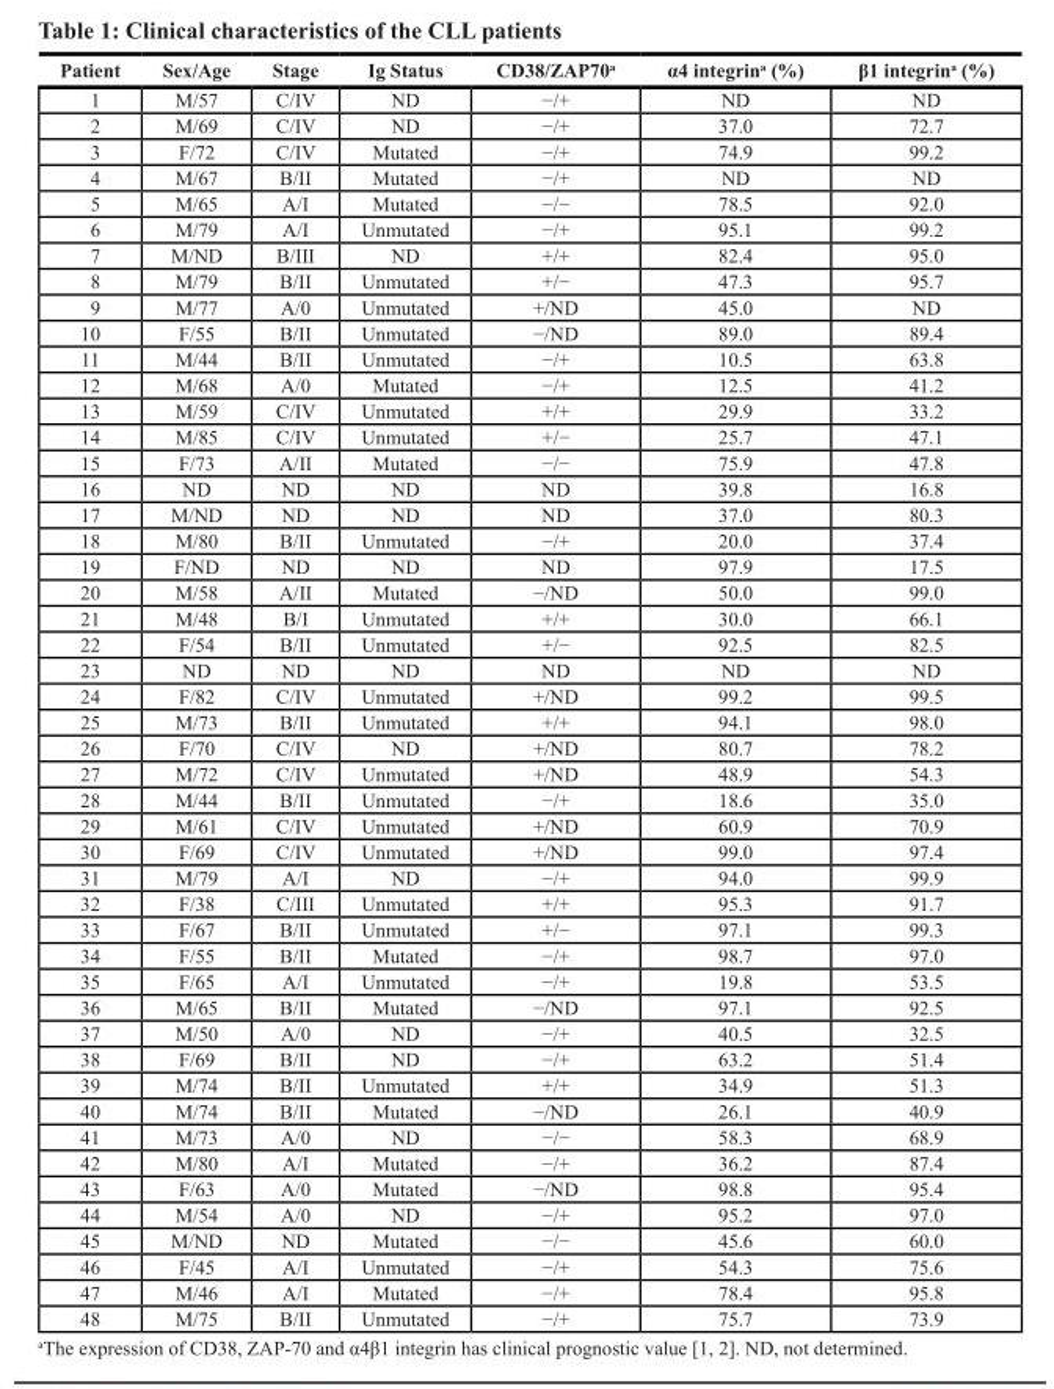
<table><thead><tr><td>Patient</td><td>Sex/Age</td><td>Stage</td><td>Ig Status</td><td>CD38/ZAP70<sup>a</sup></td><td>α4 integrin<sup>a</sup> (%)</td><td>β1 integrin<sup>a</sup> (%)</td></tr></thead><tbody><tr><td>1</td><td>M/57</td><td>C/IV</td><td>ND</td><td>−/+</td><td>ND</td><td>ND</td></tr><tr><td>2</td><td>M/69</td><td>C/IV</td><td>ND</td><td>−/+</td><td>37.0</td><td>72.7</td></tr><tr><td>3</td><td>F/72</td><td>C/IV</td><td>Mutated</td><td>−/+</td><td>74.9</td><td>99.2</td></tr><tr><td>4</td><td>M/67</td><td>B/II</td><td>Mutated</td><td>−/+</td><td>ND</td><td>ND</td></tr><tr><td>5</td><td>M/65</td><td>A/I</td><td>Mutated</td><td>−/−</td><td>78.5</td><td>92.0</td></tr><tr><td>6</td><td>M/79</td><td>A/I</td><td>Unmutated</td><td>−/+</td><td>95.1</td><td>99.2</td></tr><tr><td>7</td><td>M/ND</td><td>B/III</td><td>ND</td><td>+/+</td><td>82.4</td><td>95.0</td></tr><tr><td>8</td><td>M/79</td><td>B/II</td><td>Unmutated</td><td>+/−</td><td>47.3</td><td>95.7</td></tr><tr><td>9</td><td>M/77</td><td>A/0</td><td>Unmutated</td><td>+/ND</td><td>45.0</td><td>ND</td></tr><tr><td>10</td><td>F/55</td><td>B/II</td><td>Unmutated</td><td>−/ND</td><td>89.0</td><td>89.4</td></tr><tr><td>11</td><td>M/44</td><td>B/II</td><td>Unmutated</td><td>−/+</td><td>10.5</td><td>63.8</td></tr><tr><td>12</td><td>M/68</td><td>A/0</td><td>Mutated</td><td>−/+</td><td>12.5</td><td>41.2</td></tr><tr><td>13</td><td>M/59</td><td>C/IV</td><td>Unmutated</td><td>+/+</td><td>29.9</td><td>33.2</td></tr><tr><td>14</td><td>M/85</td><td>C/IV</td><td>Unmutated</td><td>+/−</td><td>25.7</td><td>47.1</td></tr><tr><td>15</td><td>F/73</td><td>A/II</td><td>Mutated</td><td>−/−</td><td>75.9</td><td>47.8</td></tr><tr><td>16</td><td>ND</td><td>ND</td><td>ND</td><td>ND</td><td>39.8</td><td>16.8</td></tr><tr><td>17</td><td>M/ND</td><td>ND</td><td>ND</td><td>ND</td><td>37.0</td><td>80.3</td></tr><tr><td>18</td><td>M/80</td><td>B/II</td><td>Unmutated</td><td>−/+</td><td>20.0</td><td>37.4</td></tr><tr><td>19</td><td>F/ND</td><td>ND</td><td>ND</td><td>ND</td><td>97.9</td><td>17.5</td></tr><tr><td>20</td><td>M/58</td><td>A/II</td><td>Mutated</td><td>−/ND</td><td>50.0</td><td>99.0</td></tr><tr><td>21</td><td>M/48</td><td>B/I</td><td>Unmutated</td><td>+/+</td><td>30.0</td><td>66.1</td></tr><tr><td>22</td><td>F/54</td><td>B/II</td><td>Unmutated</td><td>+/−</td><td>92.5</td><td>82.5</td></tr><tr><td>23</td><td>ND</td><td>ND</td><td>ND</td><td>ND</td><td>ND</td><td>ND</td></tr><tr><td>24</td><td>F/82</td><td>C/IV</td><td>Unmutated</td><td>+/ND</td><td>99.2</td><td>99.5</td></tr><tr><td>25</td><td>M/73</td><td>B/II</td><td>Unmutated</td><td>+/+</td><td>94.1</td><td>98.0</td></tr><tr><td>26</td><td>F/70</td><td>C/IV</td><td>ND</td><td>+/ND</td><td>80.7</td><td>78.2</td></tr><tr><td>27</td><td>M/72</td><td>C/IV</td><td>Unmutated</td><td>+/ND</td><td>48.9</td><td>54.3</td></tr><tr><td>28</td><td>M/44</td><td>B/II</td><td>Unmutated</td><td>−/+</td><td>18.6</td><td>35.0</td></tr><tr><td>29</td><td>M/61</td><td>C/IV</td><td>Unmutated</td><td>+/ND</td><td>60.9</td><td>70.9</td></tr><tr><td>30</td><td>F/69</td><td>C/IV</td><td>Unmutated</td><td>+/ND</td><td>99.0</td><td>97.4</td></tr><tr><td>31</td><td>M/79</td><td>A/I</td><td>ND</td><td>−/+</td><td>94.0</td><td>99.9</td></tr><tr><td>32</td><td>F/38</td><td>C/III</td><td>Unmutated</td><td>+/+</td><td>95.3</td><td>91.7</td></tr><tr><td>33</td><td>F/67</td><td>B/II</td><td>Unmutated</td><td>+/−</td><td>97.1</td><td>99.3</td></tr><tr><td>34</td><td>F/55</td><td>B/II</td><td>Mutated</td><td>−/+</td><td>98.7</td><td>97.0</td></tr><tr><td>35</td><td>F/65</td><td>A/I</td><td>Unmutated</td><td>−/+</td><td>19.8</td><td>53.5</td></tr><tr><td>36</td><td>M/65</td><td>B/II</td><td>Mutated</td><td>−/ND</td><td>97.1</td><td>92.5</td></tr><tr><td>37</td><td>M/50</td><td>A/0</td><td>ND</td><td>−/+</td><td>40.5</td><td>32.5</td></tr><tr><td>38</td><td>F/69</td><td>B/II</td><td>ND</td><td>−/+</td><td>63.2</td><td>51.4</td></tr><tr><td>39</td><td>M/74</td><td>B/II</td><td>Unmutated</td><td>+/+</td><td>34.9</td><td>51.3</td></tr><tr><td>40</td><td>M/74</td><td>B/II</td><td>Mutated</td><td>−/ND</td><td>26.1</td><td>40.9</td></tr><tr><td>41</td><td>M/73</td><td>A/0</td><td>ND</td><td>−/−</td><td>58.3</td><td>68.9</td></tr><tr><td>42</td><td>M/80</td><td>A/I</td><td>Mutated</td><td>−/+</td><td>36.2</td><td>87.4</td></tr><tr><td>43</td><td>F/63</td><td>A/0</td><td>Mutated</td><td>−/ND</td><td>98.8</td><td>95.4</td></tr><tr><td>44</td><td>M/54</td><td>A/0</td><td>ND</td><td>−/+</td><td>95.2</td><td>97.0</td></tr><tr><td>45</td><td>M/ND</td><td>ND</td><td>Mutated</td><td>−/−</td><td>45.6</td><td>60.0</td></tr><tr><td>46</td><td>F/45</td><td>A/I</td><td>Unmutated</td><td>−/+</td><td>54.3</td><td>75.6</td></tr><tr><td>47</td><td>M/46</td><td>A/I</td><td>Mutated</td><td>−/+</td><td>78.4</td><td>95.8</td></tr><tr><td>48</td><td>M/75</td><td>B/II</td><td>Unmutated</td><td>−/+</td><td>75.7</td><td>73.9</td></tr></tbody></table>